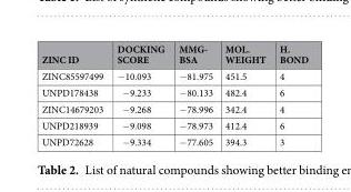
<table><thead><tr><td>ZINC ID</td><td>DOCKING SCORE</td><td>MMG- BSA</td><td>MOL. WEIGHT</td><td>H. BOND</td></tr></thead><tbody><tr><td>ZINC85597499</td><td>−10.093</td><td>−81.975</td><td>451.5</td><td>4</td></tr><tr><td>UNPD178438</td><td>−9.233</td><td>−80.133</td><td>482.4</td><td>6</td></tr><tr><td>ZINC14679203</td><td>−9.268</td><td>−78.996</td><td>342.4</td><td>4</td></tr><tr><td>UNPD218939</td><td>−9.098</td><td>−78.973</td><td>412.4</td><td>6</td></tr><tr><td>UNPD72628</td><td>−9.334</td><td>−77.605</td><td>394.3</td><td>3</td></tr></tbody></table>